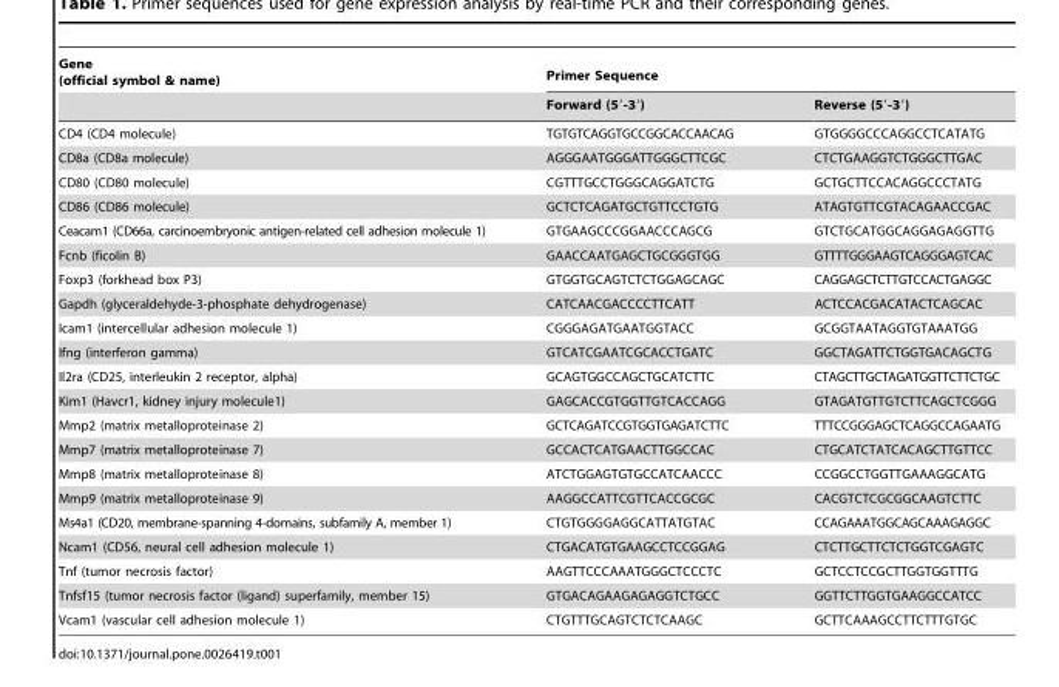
<table><thead><tr><td rowspan="2">Gene (official symbol &amp; name)</td><td colspan="2">Primer Sequence</td></tr><tr><td>Forward (5′-3′)</td><td>Reverse (5′-3′)</td></tr></thead><tbody><tr><td>CD4 (CD4 molecule)</td><td>TGTGTCAGGTGCCGGCACCAACAG</td><td>GTGGGGCCCAGGCCTCATATG</td></tr><tr><td>CD8a (CD8a molecule)</td><td>AGGGAATGGGATTGGGCTTCGC</td><td>CTCTGAAGGTCTGGGCTTGAC</td></tr><tr><td>CD80 (CD80 molecule)</td><td>CGTTTGCCTGGGCAGGATCTG</td><td>GCTGCTTCCACAGGCCCTATG</td></tr><tr><td>CD86 (CD86 molecule)</td><td>GCTCTCAGATGCTGTTCCTGTG</td><td>ATAGTGTTCGTACAGAACCGAC</td></tr><tr><td>Ceacam1 (CD66a, carcinoembryonic antigen-related cell adhesion molecule 1)</td><td>GTGAAGCCCGGAACCCAGCG</td><td>GTCTGCATGGCAGGAGAGGTTG</td></tr><tr><td>Fcnb (ficolin B)</td><td>GAACCAATGAGCTGCGGGTGG</td><td>GTTTTGGGAAGTCAGGGAGTCAC</td></tr><tr><td>Foxp3 (forkhead box P3)</td><td>GTGGTGCAGTCTCTGGAGCAGC</td><td>CAGGAGCTCTTGTCCACTGAGGC</td></tr><tr><td>Gapdh (glyceraldehyde-3-phosphate dehydrogenase)</td><td>CATCAACGACCCCTTCATT</td><td>ACTCCACGACATACTCAGCAC</td></tr><tr><td>Icam1 (intercellular adhesion molecule 1)</td><td>CGGGAGATGAATGGTACC</td><td>GCGGTAATAGGTGTAAATGG</td></tr><tr><td>Ifng (interferon gamma)</td><td>GTCATCGAATCGCACCTGATC</td><td>GGCTAGATTCTGGTGACAGCTG</td></tr><tr><td>Il2ra (CD25, interleukin 2 receptor, alpha)</td><td>GCAGTGGCCAGCTGCATCTTC</td><td>CTAGCTTGCTAGATGGTTCTTCTGC</td></tr><tr><td>Kim1 (Havcr1, kidney injury molecule1)</td><td>GAGCACCGTGGTTGTCACCAGG</td><td>GTAGATGTTGTCTTCAGCTCGGG</td></tr><tr><td>Mmp2 (matrix metalloproteinase 2)</td><td>GCTCAGATCCGTGGTGAGATCTTC</td><td>TTTCCGGGAGCTCAGGCCAGAATG</td></tr><tr><td>Mmp7 (matrix metalloproteinase 7)</td><td>GCCACTCATGAACTTGGCCAC</td><td>CTGCATCTATCACAGCTTGTTCC</td></tr><tr><td>Mmp8 (matrix metalloproteinase 8)</td><td>ATCTGGAGTGTGCCATCAACCC</td><td>CCGGCCTGGTTGAAAGGCATG</td></tr><tr><td>Mmp9 (matrix metalloproteinase 9)</td><td>AAGGCCATTCGTTCACCGCGC</td><td>CACGTCTCGCGGCAAGTCTTC</td></tr><tr><td>Ms4a1 (CD20, membrane-spanning 4-domains, subfamily A, member 1)</td><td>CTGTGGGGAGGCATTATGTAC</td><td>CCAGAAATGGCAGCAAAGAGGC</td></tr><tr><td>Ncam1 (CD56, neural cell adhesion molecule 1)</td><td>CTGACATGTGAAGCCTCCGGAG</td><td>CTCTTGCTTCTCTGGTCGAGTC</td></tr><tr><td>Tnf (tumor necrosis factor)</td><td>AAGTTCCCAAATGGGCTCCCTC</td><td>GCTCCTCCGCTTGGTGGTTTG</td></tr><tr><td>Tnfsf15 (tumor necrosis factor (ligand) superfamily, member 15)</td><td>GTGACAGAAGAGAGGTCTGCC</td><td>GGTTCTTGGTGAAGGCCATCC</td></tr><tr><td>Vcam1 (vascular cell adhesion molecule 1)</td><td>CTGTTTGCAGTCTCTCAAGC</td><td>GCTTCAAAGCCTTCTTTGTGC</td></tr></tbody></table>